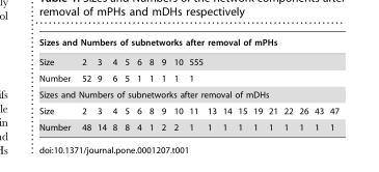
<table><thead><tr><td colspan="19">Sizes and Numbers of subnetworks after removal of mPHs</td></tr></thead><tbody><tr><td>Size</td><td>2</td><td>3</td><td>4</td><td>5</td><td>6</td><td>8</td><td>9</td><td>10</td><td>555</td><td colspan="9"></td></tr><tr><td>Number</td><td>52</td><td>9</td><td>6</td><td>5</td><td>1</td><td>1</td><td>1</td><td>1</td><td>1</td><td colspan="9"></td></tr><tr><td colspan="19">Sizes and Numbers of subnetworks after removal of mDHs</td></tr><tr><td>Size</td><td>2</td><td>3</td><td>4</td><td>5</td><td>6</td><td>8</td><td>9</td><td>10</td><td>11</td><td>13</td><td>14</td><td>15</td><td>19</td><td>21</td><td>22</td><td>26</td><td>43</td><td>47</td></tr><tr><td>Number</td><td>48</td><td>14</td><td>8</td><td>8</td><td>4</td><td>1</td><td>2</td><td>2</td><td>1</td><td>1</td><td>1</td><td>1</td><td>1</td><td>1</td><td>1</td><td>1</td><td>1</td><td>1</td></tr></tbody></table>